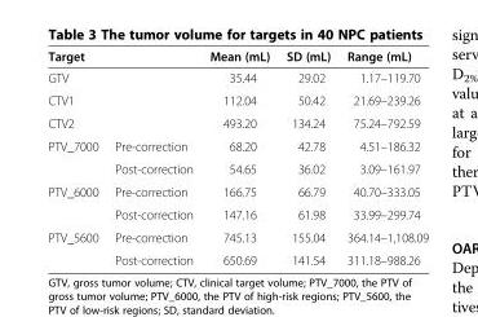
<table><thead><tr><td colspan="2">Target</td><td>Mean (mL)</td><td>SD (mL)</td><td>Range (mL)</td></tr></thead><tbody><tr><td colspan="2">GTV</td><td>35.44</td><td>29.02</td><td>1.17–119.70</td></tr><tr><td colspan="2">CTV1</td><td>112.04</td><td>50.42</td><td>21.69–239.26</td></tr><tr><td colspan="2">CTV2</td><td>493.20</td><td>134.24</td><td>75.24–792.59</td></tr><tr><td rowspan="2">PTV_7000</td><td>Pre-correction</td><td>68.20</td><td>42.78</td><td>4.51–186.32</td></tr><tr><td>Post-correction</td><td>54.65</td><td>36.02</td><td>3.09–161.97</td></tr><tr><td rowspan="2">PTV_6000</td><td>Pre-correction</td><td>166.75</td><td>66.79</td><td>40.70–333.05</td></tr><tr><td>Post-correction</td><td>147.16</td><td>61.98</td><td>33.99–299.74</td></tr><tr><td rowspan="2">PTV_5600</td><td>Pre-correction</td><td>745.13</td><td>155.04</td><td>364.14–1,108.09</td></tr><tr><td>Post-correction</td><td>650.69</td><td>141.54</td><td>311.18–988.26</td></tr></tbody></table>